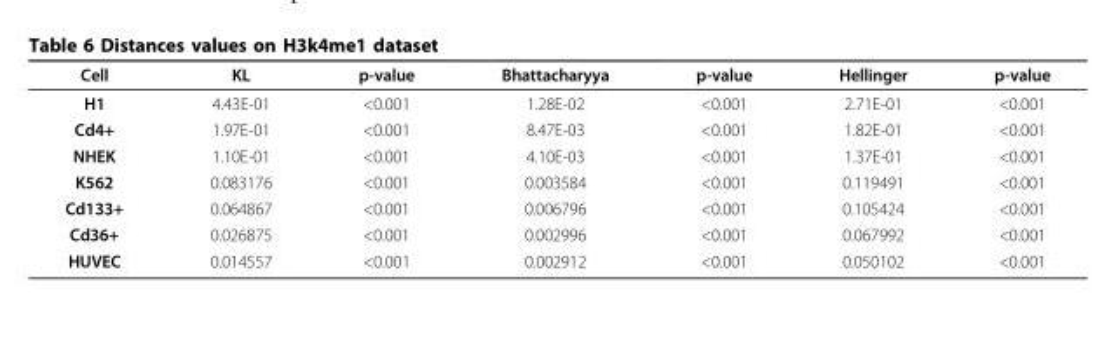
<table><thead><tr><td>Cell</td><td>KL</td><td>p-value</td><td>Bhattacharyya</td><td>p-value</td><td>Hellinger</td><td>p-value</td></tr></thead><tbody><tr><td>H1</td><td>4.43E-01</td><td>&lt;0.001</td><td>1.28E-02</td><td>&lt;0.001</td><td>2.71E-01</td><td>&lt;0.001</td></tr><tr><td>Cd4+</td><td>1.97E-01</td><td>&lt;0.001</td><td>8.47E-03</td><td>&lt;0.001</td><td>1.82E-01</td><td>&lt;0.001</td></tr><tr><td>NHEK</td><td>1.10E-01</td><td>&lt;0.001</td><td>4.10E-03</td><td>&lt;0.001</td><td>1.37E-01</td><td>&lt;0.001</td></tr><tr><td>K562</td><td>0.083176</td><td>&lt;0.001</td><td>0.003584</td><td>&lt;0.001</td><td>0.119491</td><td>&lt;0.001</td></tr><tr><td>Cd133+</td><td>0.064867</td><td>&lt;0.001</td><td>0.006796</td><td>&lt;0.001</td><td>0.105424</td><td>&lt;0.001</td></tr><tr><td>Cd36+</td><td>0.026875</td><td>&lt;0.001</td><td>0.002996</td><td>&lt;0.001</td><td>0.067992</td><td>&lt;0.001</td></tr><tr><td>HUVEC</td><td>0.014557</td><td>&lt;0.001</td><td>0.002912</td><td>&lt;0.001</td><td>0.050102</td><td>&lt;0.001</td></tr></tbody></table>